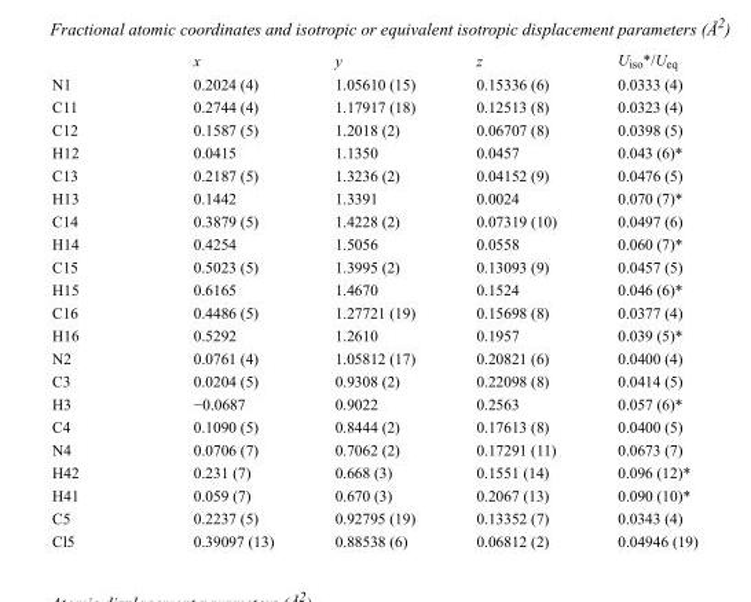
<table><thead><tr><td></td><td>x</td><td>y</td><td>z</td><td>U<sub>iso</sub>*/U<sub>eq</sub></td></tr></thead><tbody><tr><td>N1</td><td>0.2024 (4)</td><td>1.05610 (15)</td><td>0.15336 (6)</td><td>0.0333 (4)</td></tr><tr><td>C11</td><td>0.2744 (4)</td><td>1.17917 (18)</td><td>0.12513 (8)</td><td>0.0323 (4)</td></tr><tr><td>C12</td><td>0.1587 (5)</td><td>1.2018 (2)</td><td>0.06707 (8)</td><td>0.0398 (5)</td></tr><tr><td>H12</td><td>0.0415</td><td>1.1350</td><td>0.0457</td><td>0.043 (6)*</td></tr><tr><td>C13</td><td>0.2187 (5)</td><td>1.3236 (2)</td><td>0.04152 (9)</td><td>0.0476 (5)</td></tr><tr><td>H13</td><td>0.1442</td><td>1.3391</td><td>0.0024</td><td>0.070 (7)*</td></tr><tr><td>C14</td><td>0.3879 (5)</td><td>1.4228 (2)</td><td>0.07319 (10)</td><td>0.0497 (6)</td></tr><tr><td>H14</td><td>0.4254</td><td>1.5056</td><td>0.0558</td><td>0.060 (7)*</td></tr><tr><td>C15</td><td>0.5023 (5)</td><td>1.3995 (2)</td><td>0.13093 (9)</td><td>0.0457 (5)</td></tr><tr><td>H15</td><td>0.6165</td><td>1.4670</td><td>0.1524</td><td>0.046 (6)*</td></tr><tr><td>C16</td><td>0.4486 (5)</td><td>1.27721 (19)</td><td>0.15698 (8)</td><td>0.0377 (4)</td></tr><tr><td>H16</td><td>0.5292</td><td>1.2610</td><td>0.1957</td><td>0.039 (5)*</td></tr><tr><td>N2</td><td>0.0761 (4)</td><td>1.05812 (17)</td><td>0.20821 (6)</td><td>0.0400 (4)</td></tr><tr><td>C3</td><td>0.0204 (5)</td><td>0.9308 (2)</td><td>0.22098 (8)</td><td>0.0414 (5)</td></tr><tr><td>H3</td><td>−0.0687</td><td>0.9022</td><td>0.2563</td><td>0.057 (6)*</td></tr><tr><td>C4</td><td>0.1090 (5)</td><td>0.8444 (2)</td><td>0.17613 (8)</td><td>0.0400 (5)</td></tr><tr><td>N4</td><td>0.0706 (7)</td><td>0.7062 (2)</td><td>0.17291 (11)</td><td>0.0673 (7)</td></tr><tr><td>H42</td><td>0.231 (7)</td><td>0.668 (3)</td><td>0.1551 (14)</td><td>0.096 (12)*</td></tr><tr><td>H41</td><td>0.059 (7)</td><td>0.670 (3)</td><td>0.2067 (13)</td><td>0.090 (10)*</td></tr><tr><td>C5</td><td>0.2237 (5)</td><td>0.92795 (19)</td><td>0.13352 (7)</td><td>0.0343 (4)</td></tr><tr><td>Cl5</td><td>0.39097 (13)</td><td>0.88538 (6)</td><td>0.06812 (2)</td><td>0.04946 (19)</td></tr></tbody></table>